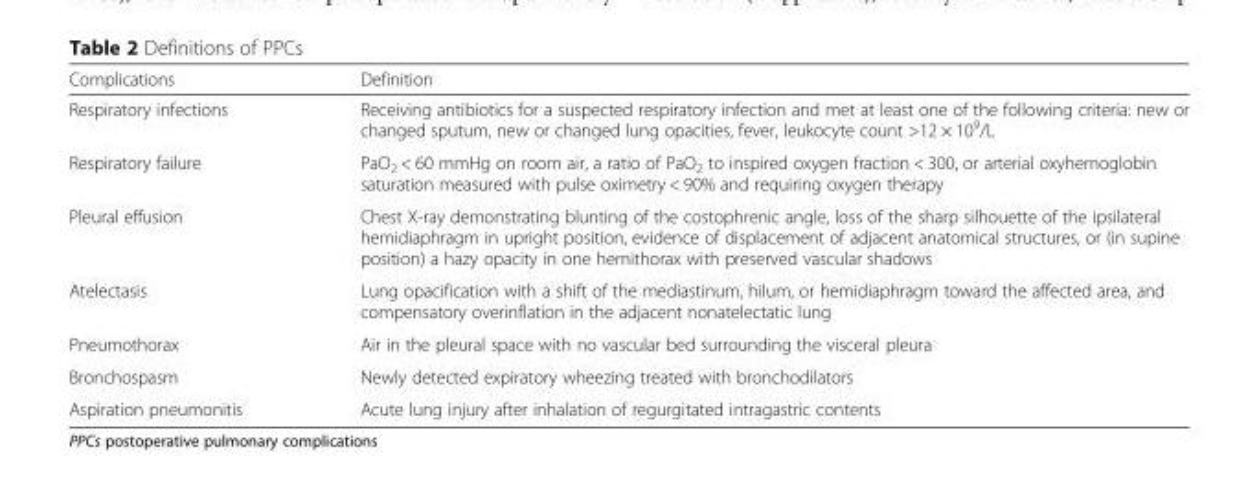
<table><thead><tr><td>Complications</td><td>Definition</td></tr></thead><tbody><tr><td>Respiratory infections</td><td>Receiving antibiotics for a suspected respiratory infection and met at least one of the following criteria: new or changed sputum, new or changed lung opacities, fever, leukocyte count &gt;12 × 10<sup>9</sup>/L</td></tr><tr><td>Respiratory failure</td><td>PaO<sub>2</sub> &lt; 60 mmHg on room air, a ratio of PaO<sub>2</sub> to inspired oxygen fraction &lt; 300, or arterial oxyhemoglobin saturation measured with pulse oximetry &lt; 90% and requiring oxygen therapy</td></tr><tr><td>Pleural effusion</td><td>Chest X-ray demonstrating blunting of the costophrenic angle, loss of the sharp silhouette of the ipsilateral hemidiaphragm in upright position, evidence of displacement of adjacent anatomical structures, or (in supine position) a hazy opacity in one hemithorax with preserved vascular shadows</td></tr><tr><td>Atelectasis</td><td>Lung opacification with a shift of the mediastinum, hilum, or hemidiaphragm toward the affected area, and compensatory overinflation in the adjacent nonatelectatic lung</td></tr><tr><td>Pneumothorax</td><td>Air in the pleural space with no vascular bed surrounding the visceral pleura</td></tr><tr><td>Bronchospasm</td><td>Newly detected expiratory wheezing treated with bronchodilators</td></tr><tr><td>Aspiration pneumonitis</td><td>Acute lung injury after inhalation of regurgitated intragastric contents</td></tr></tbody></table>